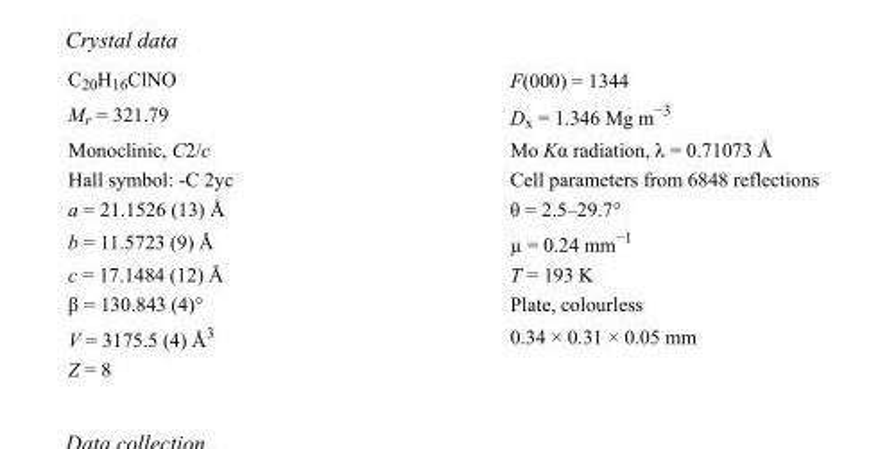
<table><tbody><tr><td>C<sub>20</sub>H<sub>16</sub>ClNO</td><td>F(000) = 1344</td></tr><tr><td>M<sub>r</sub> = 321.79</td><td>D<sub>x</sub> = 1.346 Mg m<sup>−3</sup></td></tr><tr><td>Monoclinic, C2/c</td><td>Mo Kα radiation, λ = 0.71073 Å</td></tr><tr><td>Hall symbol: -C 2yc</td><td>Cell parameters from 6848 reflections</td></tr><tr><td>a = 21.1526 (13) Å</td><td>θ = 2.5–29.7°</td></tr><tr><td>b = 11.5723 (9) Å</td><td>µ = 0.24 mm<sup>−1</sup></td></tr><tr><td>c = 17.1484 (12) Å</td><td>T = 193 K</td></tr><tr><td>β = 130.843 (4)°</td><td>Plate, colourless</td></tr><tr><td>V = 3175.5 (4) Å<sup>3</sup></td><td>0.34 × 0.31 × 0.05 mm</td></tr><tr><td>Z = 8</td><td></td></tr></tbody></table>